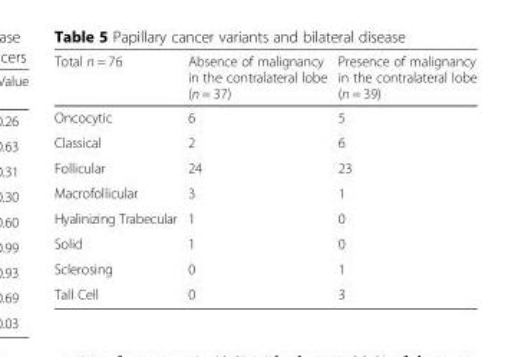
<table><thead><tr><td>Total n = 76</td><td>Absence of malignancy in the contralateral lobe (n = 37)</td><td>Presence of malignancy in the contralateral lobe (n = 39)</td></tr></thead><tbody><tr><td>Oncocytic</td><td>6</td><td>5</td></tr><tr><td>Classical</td><td>2</td><td>6</td></tr><tr><td>Follicular</td><td>24</td><td>23</td></tr><tr><td>Macrofollicular</td><td>3</td><td>1</td></tr><tr><td>Hyalinizing Trabecular</td><td>1</td><td>0</td></tr><tr><td>Solid</td><td>1</td><td>0</td></tr><tr><td>Sclerosing</td><td>0</td><td>1</td></tr><tr><td>Tall Cell</td><td>0</td><td>3</td></tr></tbody></table>